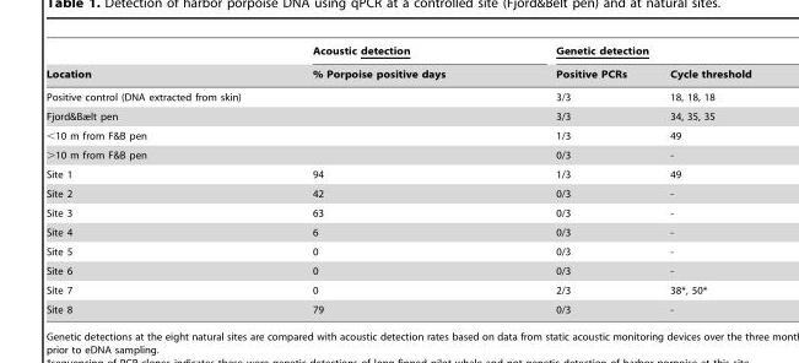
<table><thead><tr><td rowspan="2">Location</td><td rowspan="2">Acoustic detection % Porpoise positive days</td><td colspan="2">Genetic detection</td></tr><tr><td>Positive PCRs</td><td>Cycle threshold</td></tr></thead><tbody><tr><td>Positive control (DNA extracted from skin)</td><td></td><td>3/3</td><td>18, 18, 18</td></tr><tr><td>Fjord&amp;Bælt pen</td><td></td><td>3/3</td><td>34, 35, 35</td></tr><tr><td>&lt;10 m from F&amp;B pen</td><td></td><td>1/3</td><td>49</td></tr><tr><td>&gt;10 m from F&amp;B pen</td><td></td><td>0/3</td><td>-</td></tr><tr><td>Site 1</td><td>94</td><td>1/3</td><td>49</td></tr><tr><td>Site 2</td><td>42</td><td>0/3</td><td>-</td></tr><tr><td>Site 3</td><td>63</td><td>0/3</td><td>-</td></tr><tr><td>Site 4</td><td>6</td><td>0/3</td><td>-</td></tr><tr><td>Site 5</td><td>0</td><td>0/3</td><td>-</td></tr><tr><td>Site 6</td><td>0</td><td>0/3</td><td>-</td></tr><tr><td>Site 7</td><td>0</td><td>2/3</td><td>38*, 50*</td></tr><tr><td>Site 8</td><td>79</td><td>0/3</td><td>-</td></tr></tbody></table>